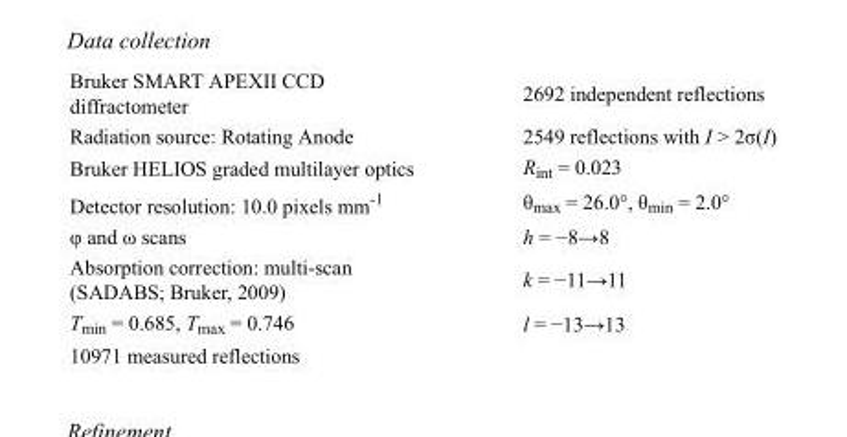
<table><tbody><tr><td>Bruker SMART APEXII CCD diffractometer</td><td>2692 independent reflections</td></tr><tr><td>Radiation source: Rotating Anode</td><td>2549 reflections with I &gt; 2σ(I)</td></tr><tr><td>Bruker HELIOS graded multilayer optics</td><td>R<sub>int</sub> = 0.023</td></tr><tr><td>Detector resolution: 10.0 pixels mm<sup>-1</sup></td><td>θ<sub>max</sub> = 26.0°, θ<sub>min</sub> = 2.0°</td></tr><tr><td>φ and ω scans</td><td>h = −8→8</td></tr><tr><td>Absorption correction: multi-scan (SADABS; Bruker, 2009)</td><td>k = −11→11</td></tr><tr><td>T<sub>min</sub> = 0.685, T<sub>max</sub> = 0.746</td><td>l = −13→13</td></tr><tr><td>10971 measured reflections</td><td></td></tr></tbody></table>